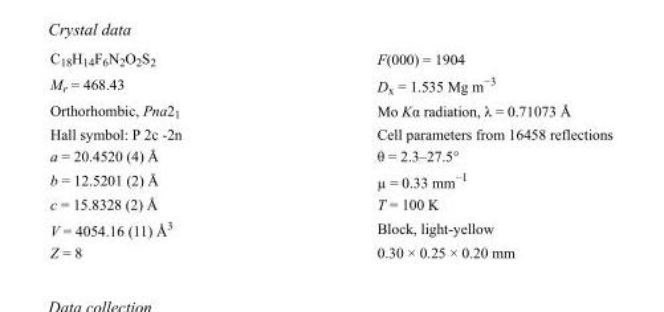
<table><tbody><tr><td>C<sub>18</sub>H<sub>14</sub>F<sub>6</sub>N<sub>2</sub>O<sub>2</sub>S<sub>2</sub></td><td>F(000) = 1904</td></tr><tr><td>M<sub>r</sub> = 468.43</td><td>D<sub>x</sub> = 1.535 Mg m<sup>−3</sup></td></tr><tr><td>Orthorhombic, Pna2<sub>1</sub></td><td>Mo Kα radiation, λ = 0.71073 Å</td></tr><tr><td>Hall symbol: P 2c -2n</td><td>Cell parameters from 16458 reflections</td></tr><tr><td>a = 20.4520 (4) Å</td><td>θ = 2.3–27.5°</td></tr><tr><td>b = 12.5201 (2) Å</td><td>µ = 0.33 mm<sup>−1</sup></td></tr><tr><td>c = 15.8328 (2) Å</td><td>T = 100 K</td></tr><tr><td>V = 4054.16 (11) Å<sup>3</sup></td><td>Block, light-yellow</td></tr><tr><td>Z = 8</td><td>0.30 × 0.25 × 0.20 mm</td></tr></tbody></table>